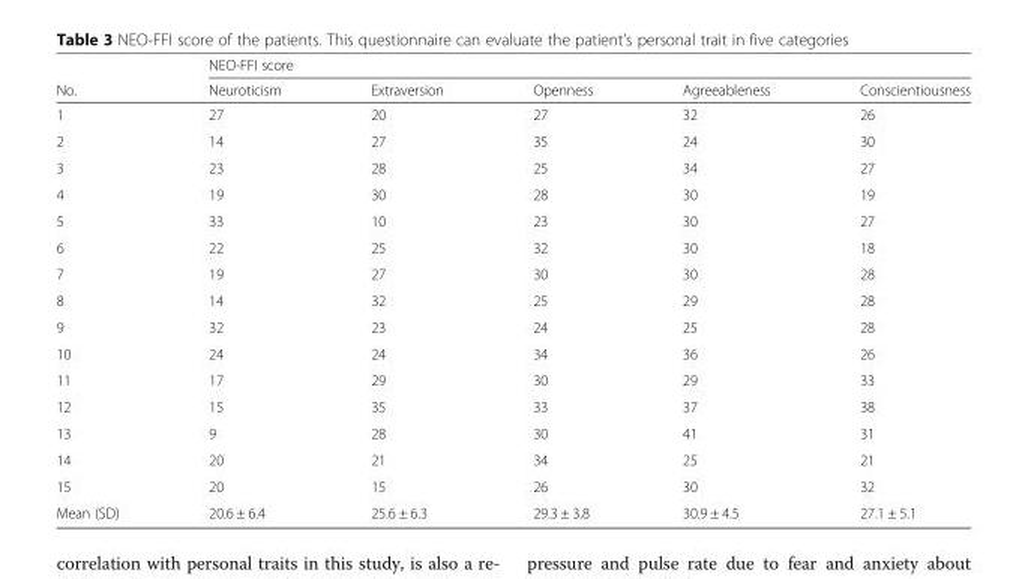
<table><thead><tr><td rowspan="2">No.</td><td colspan="5">NEO-FFI score</td></tr><tr><td>Neuroticism</td><td>Extraversion</td><td>Openness</td><td>Agreeableness</td><td>Conscientiousness</td></tr></thead><tbody><tr><td>1</td><td>27</td><td>20</td><td>27</td><td>32</td><td>26</td></tr><tr><td>2</td><td>14</td><td>27</td><td>35</td><td>24</td><td>30</td></tr><tr><td>3</td><td>23</td><td>28</td><td>25</td><td>34</td><td>27</td></tr><tr><td>4</td><td>19</td><td>30</td><td>28</td><td>30</td><td>19</td></tr><tr><td>5</td><td>33</td><td>10</td><td>23</td><td>30</td><td>27</td></tr><tr><td>6</td><td>22</td><td>25</td><td>32</td><td>30</td><td>18</td></tr><tr><td>7</td><td>19</td><td>27</td><td>30</td><td>30</td><td>28</td></tr><tr><td>8</td><td>14</td><td>32</td><td>25</td><td>29</td><td>28</td></tr><tr><td>9</td><td>32</td><td>23</td><td>24</td><td>25</td><td>28</td></tr><tr><td>10</td><td>24</td><td>24</td><td>34</td><td>36</td><td>26</td></tr><tr><td>11</td><td>17</td><td>29</td><td>30</td><td>29</td><td>33</td></tr><tr><td>12</td><td>15</td><td>35</td><td>33</td><td>37</td><td>38</td></tr><tr><td>13</td><td>9</td><td>28</td><td>30</td><td>41</td><td>31</td></tr><tr><td>14</td><td>20</td><td>21</td><td>34</td><td>25</td><td>21</td></tr><tr><td>15</td><td>20</td><td>15</td><td>26</td><td>30</td><td>32</td></tr><tr><td>Mean (SD)</td><td>20.6 ± 6.4</td><td>25.6 ± 6.3</td><td>29.3 ± 3.8</td><td>30.9 ± 4.5</td><td>27.1 ± 5.1</td></tr></tbody></table>